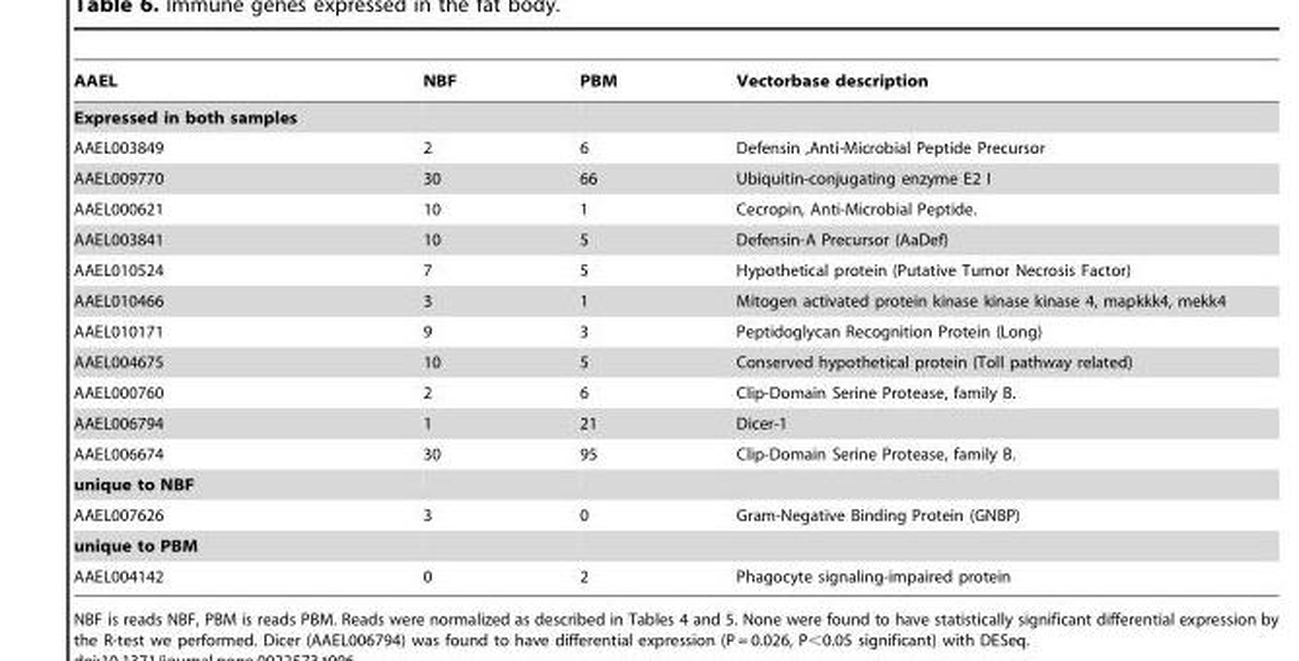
<table><thead><tr><td>AAEL</td><td>NBF</td><td>PBM</td><td>Vectorbase description</td></tr></thead><tbody><tr><td colspan="4">Expressed in both samples</td></tr><tr><td>AAEL003849</td><td>2</td><td>6</td><td>Defensin ,Anti-Microbial Peptide Precursor</td></tr><tr><td>AAEL009770</td><td>30</td><td>66</td><td>Ubiquitin-conjugating enzyme E2 I</td></tr><tr><td>AAEL000621</td><td>10</td><td>1</td><td>Cecropin, Anti-Microbial Peptide.</td></tr><tr><td>AAEL003841</td><td>10</td><td>5</td><td>Defensin-A Precursor (AaDef)</td></tr><tr><td>AAEL010524</td><td>7</td><td>5</td><td>Hypothetical protein (Putative Tumor Necrosis Factor)</td></tr><tr><td>AAEL010466</td><td>3</td><td>1</td><td>Mitogen activated protein kinase kinase kinase 4, mapkkk4, mekk4</td></tr><tr><td>AAEL010171</td><td>9</td><td>3</td><td>Peptidoglycan Recognition Protein (Long)</td></tr><tr><td>AAEL004675</td><td>10</td><td>5</td><td>Conserved hypothetical protein (Toll pathway related)</td></tr><tr><td>AAEL000760</td><td>2</td><td>6</td><td>Clip-Domain Serine Protease, family B.</td></tr><tr><td>AAEL006794</td><td>1</td><td>21</td><td>Dicer-1</td></tr><tr><td>AAEL006674</td><td>30</td><td>95</td><td>Clip-Domain Serine Protease, family B.</td></tr><tr><td colspan="4">unique to NBF</td></tr><tr><td>AAEL007626</td><td>3</td><td>0</td><td>Gram-Negative Binding Protein (GNBP)</td></tr><tr><td colspan="4">unique to PBM</td></tr><tr><td>AAEL004142</td><td>0</td><td>2</td><td>Phagocyte signaling-impaired protein</td></tr></tbody></table>